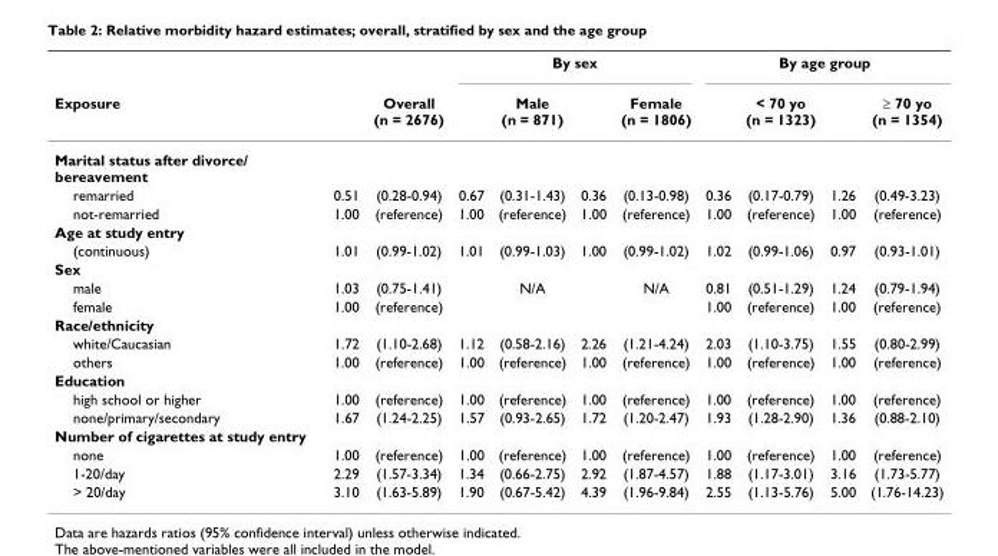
<table><thead><tr><td rowspan="2">Exposure</td><td rowspan="2"></td><td rowspan="2">Overall (n = 2676)</td><td colspan="4">By sex</td><td colspan="4">By age group</td></tr><tr><td></td><td>Male (n = 871)</td><td></td><td>Female (n = 1806)</td><td></td><td>&lt; 70 yo (n = 1323)</td><td></td><td>≥ 70 yo (n = 1354)</td></tr></thead><tbody><tr><td colspan="11">Marital status after divorce/ bereavement</td></tr><tr><td>remarried</td><td>0.51</td><td>(0.28-0.94)</td><td>0.67</td><td>(0.31-1.43)</td><td>0.36</td><td>(0.13-0.98)</td><td>0.36</td><td>(0.17-0.79)</td><td>1.26</td><td>(0.49-3.23)</td></tr><tr><td>not-remarried</td><td>1.00</td><td>(reference)</td><td>1.00</td><td>(reference)</td><td>1.00</td><td>(reference)</td><td>1.00</td><td>(reference)</td><td>1.00</td><td>(reference)</td></tr><tr><td colspan="11">Age at study entry</td></tr><tr><td>(continuous)</td><td>1.01</td><td>(0.99-1.02)</td><td>1.01</td><td>(0.99-1.03)</td><td>1.00</td><td>(0.99-1.02)</td><td>1.02</td><td>(0.99-1.06)</td><td>0.97</td><td>(0.93-1.01)</td></tr><tr><td colspan="11">Sex</td></tr><tr><td>male</td><td>1.03</td><td>(0.75-1.41)</td><td></td><td>N/A</td><td></td><td>N/A</td><td>0.81</td><td>(0.51-1.29)</td><td>1.24</td><td>(0.79-1.94)</td></tr><tr><td>female</td><td>1.00</td><td>(reference)</td><td></td><td></td><td></td><td></td><td>1.00</td><td>(reference)</td><td>1.00</td><td>(reference)</td></tr><tr><td colspan="11">Race/ethnicity</td></tr><tr><td>white/Caucasian</td><td>1.72</td><td>(1.10-2.68)</td><td>1.12</td><td>(0.58-2.16)</td><td>2.26</td><td>(1.21-4.24)</td><td>2.03</td><td>(1.10-3.75)</td><td>1.55</td><td>(0.80-2.99)</td></tr><tr><td>others</td><td>1.00</td><td>(reference)</td><td>1.00</td><td>(reference)</td><td>1.00</td><td>(reference)</td><td>1.00</td><td>(reference)</td><td>1.00</td><td>(reference)</td></tr><tr><td colspan="11">Education</td></tr><tr><td>high school or higher</td><td>1.00</td><td>(reference)</td><td>1.00</td><td>(reference)</td><td>1.00</td><td>(reference)</td><td>1.00</td><td>(reference)</td><td>1.00</td><td>(reference)</td></tr><tr><td>none/primary/secondary</td><td>1.67</td><td>(1.24-2.25)</td><td>1.57</td><td>(0.93-2.65)</td><td>1.72</td><td>(1.20-2.47)</td><td>1.93</td><td>(1.28-2.90)</td><td>1.36</td><td>(0.88-2.10)</td></tr><tr><td colspan="11">Number of cigarettes at study entry</td></tr><tr><td>none</td><td>1.00</td><td>(reference)</td><td>1.00</td><td>(reference)</td><td>1.00</td><td>(reference)</td><td>1.00</td><td>(reference)</td><td>1.00</td><td>(reference)</td></tr><tr><td>1-20/day</td><td>2.29</td><td>(1.57-3.34)</td><td>1.34</td><td>(0.66-2.75)</td><td>2.92</td><td>(1.87-4.57)</td><td>1.88</td><td>(1.17-3.01)</td><td>3.16</td><td>(1.73-5.77)</td></tr><tr><td>&gt; 20/day</td><td>3.10</td><td>(1.63-5.89)</td><td>1.90</td><td>(0.67-5.42)</td><td>4.39</td><td>(1.96-9.84)</td><td>2.55</td><td>(1.13-5.76)</td><td>5.00</td><td>(1.76-14.23)</td></tr></tbody></table>